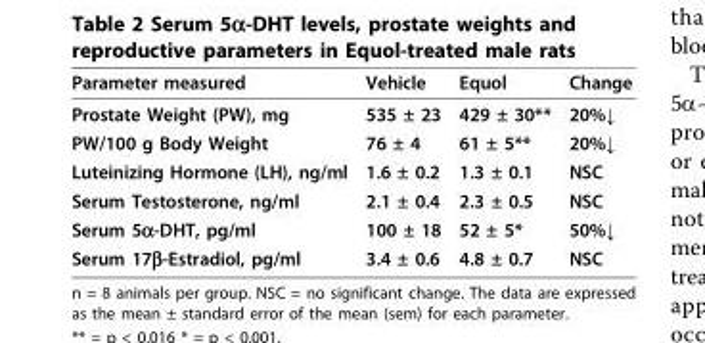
<table><thead><tr><td>Parameter measured</td><td>Vehicle</td><td>Equol</td><td>Change</td></tr></thead><tbody><tr><td>Prostate Weight (PW), mg</td><td>535 ± 23</td><td>429 ± 30**</td><td>20%↓</td></tr><tr><td>PW/100 g Body Weight</td><td>76 ± 4</td><td>61 ± 5**</td><td>20%↓</td></tr><tr><td>Luteinizing Hormone (LH), ng/ml</td><td>1.6 ± 0.2</td><td>1.3 ± 0.1</td><td>NSC</td></tr><tr><td>Serum Testosterone, ng/ml</td><td>2.1 ± 0.4</td><td>2.3 ± 0.5</td><td>NSC</td></tr><tr><td>Serum 5α-DHT, pg/ml</td><td>100 ± 18</td><td>52 ± 5*</td><td>50%↓</td></tr><tr><td>Serum 17β-Estradiol, pg/ml</td><td>3.4 ± 0.6</td><td>4.8 ± 0.7</td><td>NSC</td></tr></tbody></table>